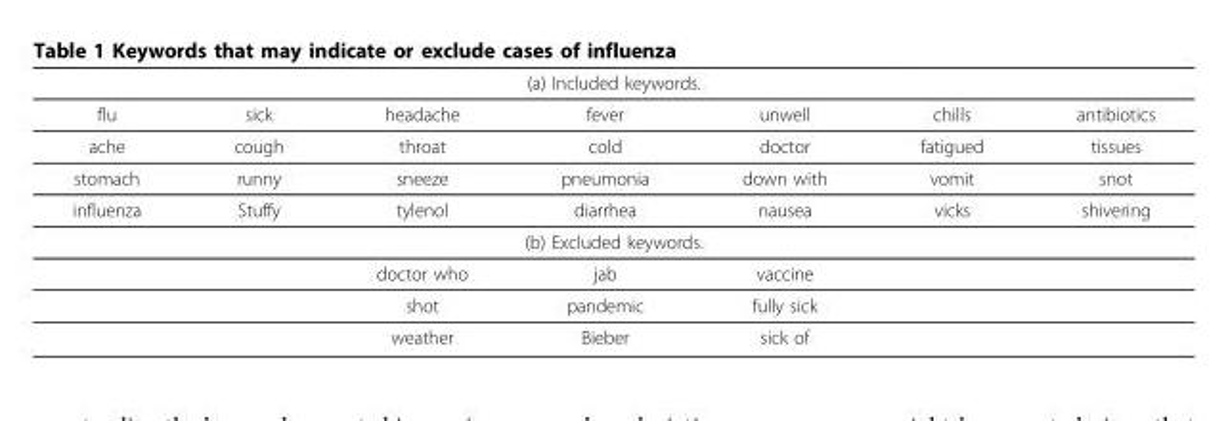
<table><thead><tr><td colspan="7">(a) Included keywords.</td></tr><tr><td>flu</td><td>sick</td><td>headache</td><td>fever</td><td>unwell</td><td>chills</td><td>antibiotics</td></tr></thead><tbody><tr><td>ache</td><td>cough</td><td>throat</td><td>cold</td><td>doctor</td><td>fatigued</td><td>tissues</td></tr><tr><td>stomach</td><td>runny</td><td>sneeze</td><td>pneumonia</td><td>down with</td><td>vomit</td><td>snot</td></tr><tr><td>influenza</td><td>Stuffy</td><td>tylenol</td><td>diarrhea</td><td>nausea</td><td>vicks</td><td>shivering</td></tr><tr><td colspan="7">(b) Excluded keywords.</td></tr><tr><td></td><td></td><td>doctor who</td><td>jab</td><td>vaccine</td><td></td><td></td></tr><tr><td></td><td></td><td>shot</td><td>pandemic</td><td>fully sick</td><td></td><td></td></tr><tr><td></td><td></td><td>weather</td><td>Bieber</td><td>sick of</td><td></td><td></td></tr></tbody></table>